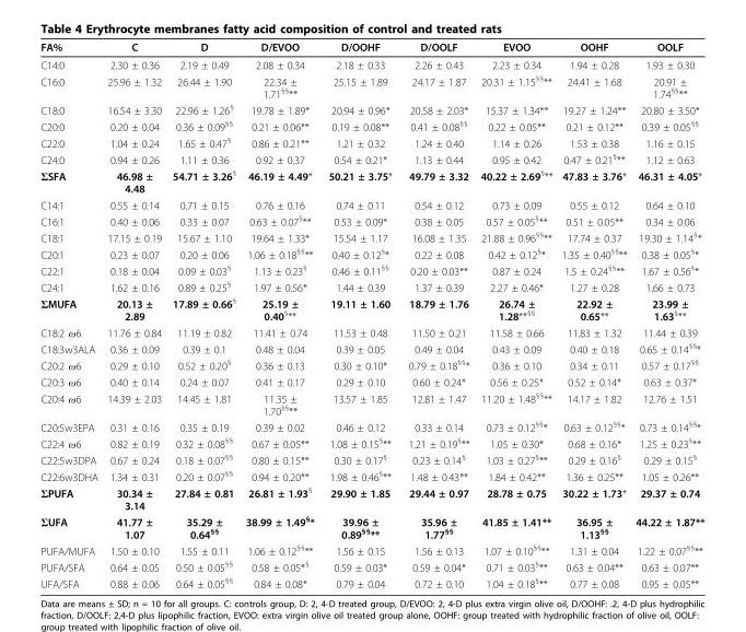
<table><thead><tr><td>FA%</td><td>C</td><td>D</td><td>D/EVOO</td><td>D/OOHF</td><td>D/OOLF</td><td>EVOO</td><td>OOHF</td><td>OOLF</td></tr></thead><tbody><tr><td>C14:0</td><td>2.30 ± 0.36</td><td>2.19 ± 0.49</td><td>2.08 ± 0.34</td><td>2.18 ± 0.33</td><td>2.26 ± 0.43</td><td>2.23 ± 0.34</td><td>1.94 ± 0.28</td><td>1.93 ± 0.30</td></tr><tr><td>C16:0</td><td>25.96 ± 1.32</td><td>26.44 ± 1.90</td><td>22.34 ± 1.71<sup>§§</sup>**</td><td>25.15 ± 1.89</td><td>24.17 ± 1.87</td><td>20.31 ± 1.15<sup>§§</sup>**</td><td>24.41 ± 1.68</td><td>20.91 ± 1.74<sup>§§</sup>**</td></tr><tr><td>C18:0</td><td>16.54 ± 3.30</td><td>22.96 ± 1.26<sup>§</sup></td><td>19.78 ± 1.89*</td><td>20.94 ± 0.96*</td><td>20.58 ± 2.03*</td><td>15.37 ± 1.34**</td><td>19.27 ± 1.24**</td><td>20.80 ± 3.50*</td></tr><tr><td>C20:0</td><td>0.20 ± 0.04</td><td>0.36 ± 0.09<sup>§§</sup></td><td>0.21 ± 0.06**</td><td>0.19 ± 0.08**</td><td>0.41 ± 0.08<sup>§§</sup></td><td>0.22 ± 0.05**</td><td>0.21 ± 0.12**</td><td>0.39 ± 0.05<sup>§§</sup></td></tr><tr><td>C22:0</td><td>1.04 ± 0.24</td><td>1.65 ± 0.47<sup>§</sup></td><td>0.86 ± 0.21**</td><td>1.21 ± 0.32</td><td>1.24 ± 0.40</td><td>1.14 ± 0.26</td><td>1.53 ± 0.38</td><td>1.16 ± 0.15</td></tr><tr><td>C24:0</td><td>0.94 ± 0.26</td><td>1.11 ± 0.36</td><td>0.92 ± 0.37</td><td>0.54 ± 0.21*</td><td>1.13 ± 0.44</td><td>0.95 ± 0.42</td><td>0.47 ± 0.21<sup>§</sup>**</td><td>1.12 ± 0.63</td></tr><tr><td>ΣSFA</td><td>46.98 ± 4.48</td><td>54.71 ± 3.26<sup>§</sup></td><td>46.19 ± 4.49*</td><td>50.21 ± 3.75*</td><td>49.79 ± 3.32</td><td>40.22 ± 2.69<sup>§</sup>**</td><td>47.83 ± 3.76*</td><td>46.31 ± 4.05*</td></tr><tr><td>C14:1</td><td>0.55 ± 0.14</td><td>0.71 ± 0.15</td><td>0.76 ± 0.16</td><td>0.74 ± 0.11</td><td>0.54 ± 0.12</td><td>0.73 ± 0.09</td><td>0.55 ± 0.12</td><td>0.64 ± 0.10</td></tr><tr><td>C16:1</td><td>0.40 ± 0.06</td><td>0.33 ± 0.07</td><td>0.63 ± 0.07<sup>§</sup>**</td><td>0.53 ± 0.09*</td><td>0.38 ± 0.05</td><td>0.57 ± 0.05<sup>§</sup>**</td><td>0.51 ± 0.05**</td><td>0.34 ± 0.06</td></tr><tr><td>C18:1</td><td>17.15 ± 0.19</td><td>15.67 ± 1.10</td><td>19.64 ± 1.33*</td><td>15.54 ± 1.17</td><td>16.08 ± 1.35</td><td>21.88 ± 0.96<sup>§§</sup>**</td><td>17.74 ± 0.37</td><td>19.30 ± 1.14<sup>§</sup>*</td></tr><tr><td>C20:1</td><td>0.23 ± 0.07</td><td>0.20 ± 0.06</td><td>1.06 ± 0.18<sup>§§</sup>**</td><td>0.40 ± 0.12<sup>§</sup>*</td><td>0.22 ± 0.08</td><td>0.42 ± 0.12<sup>§</sup>*</td><td>1.35 ± 0.40<sup>§§</sup>**</td><td>0.38 ± 0.05<sup>§</sup>*</td></tr><tr><td>C22:1</td><td>0.18 ± 0.04</td><td>0.09 ± 0.03<sup>§</sup></td><td>1.13 ± 0.23<sup>§</sup></td><td>0.46 ± 0.11<sup>§§</sup></td><td>0.20 ± 0.03**</td><td>0.87 ± 0.24</td><td>1.5 ± 0.24<sup>§§</sup>**</td><td>1.67 ± 0.56<sup>§</sup>*</td></tr><tr><td>C24:1</td><td>1.62 ± 0.16</td><td>0.89 ± 0.25<sup>§</sup></td><td>1.97 ± 0.56*</td><td>1.44 ± 0.39</td><td>1.37 ± 0.39</td><td>2.27 ± 0.46*</td><td>1.27 ± 0.28</td><td>1.66 ± 0.73</td></tr><tr><td>ΣMUFA</td><td>20.13 ± 2.89</td><td>17.89 ± 0.66<sup>§</sup></td><td>25.19 ± 0.40<sup>§</sup>**</td><td>19.11 ± 1.60</td><td>18.79 ± 1.76</td><td>26.74 ± 1.28**<sup>§§</sup></td><td>22.92 ± 0.65**</td><td>23.99 ± 1.63<sup>§</sup>**</td></tr><tr><td>C18:2 ω6</td><td>11.76 ± 0.84</td><td>11.19 ± 0.82</td><td>11.41 ± 0.74</td><td>11.53 ± 0.48</td><td>11.50 ± 0.21</td><td>11.58 ± 0.66</td><td>11.83 ± 1.32</td><td>11.44 ± 0.39</td></tr><tr><td>C18:3w3ALA</td><td>0.36 ± 0.09</td><td>0.39 ± 0.1</td><td>0.48 ± 0.04</td><td>0.39 ± 0.05</td><td>0.49 ± 0.04</td><td>0.43 ± 0.09</td><td>0.40 ± 0.18</td><td>0.65 ± 0.14<sup>§§</sup>*</td></tr><tr><td>C20:2 ω6</td><td>0.29 ± 0.10</td><td>0.52 ± 0.20<sup>§</sup></td><td>0.36 ± 0.13</td><td>0.30 ± 0.10*</td><td>0.79 ± 0.18<sup>§§</sup>*</td><td>0.36 ± 0.10</td><td>0.34 ± 0.11</td><td>0.57 ± 0.17<sup>§§</sup></td></tr><tr><td>C20:3 ω6</td><td>0.40 ± 0.14</td><td>0.24 ± 0.07</td><td>0.41 ± 0.17</td><td>0.29 ± 0.10</td><td>0.60 ± 0.24*</td><td>0.56 ± 0.25*</td><td>0.52 ± 0.14*</td><td>0.63 ± 0.37*</td></tr><tr><td>C20:4 ω6</td><td>14.39 ± 2.03</td><td>14.45 ± 1.81</td><td>11.35 ± 1.70<sup>§§</sup>**</td><td>13.57 ± 1.85</td><td>12.81 ± 1.47</td><td>11.20 ± 1.48<sup>§§</sup>**</td><td>14.17 ± 1.82</td><td>12.76 ± 1.51</td></tr><tr><td>C20:5w3EPA</td><td>0.31 ± 0.16</td><td>0.35 ± 0.19</td><td>0.39 ± 0.02</td><td>0.46 ± 0.12</td><td>0.33 ± 0.14</td><td>0.73 ± 0.12<sup>§§</sup>*</td><td>0.63 ± 0.12<sup>§§</sup>*</td><td>0.73 ± 0.14<sup>§§</sup>*</td></tr><tr><td>C22:4 ω6</td><td>0.82 ± 0.19</td><td>0.32 ± 0.08<sup>§§</sup></td><td>0.67 ± 0.05**</td><td>1.08 ± 0.15<sup>§</sup>**</td><td>1.21 ± 0.19<sup>§</sup>**</td><td>1.05 ± 0.30*</td><td>0.68 ± 0.16*</td><td>1.25 ± 0.23<sup>§</sup>**</td></tr><tr><td>C22:5w3DPA</td><td>0.67 ± 0.24</td><td>0.18 ± 0.07<sup>§§</sup></td><td>0.80 ± 0.15**</td><td>0.30 ± 0.17<sup>§</sup></td><td>0.23 ± 0.14<sup>§</sup></td><td>1.03 ± 0.27<sup>§</sup>**</td><td>0.29 ± 0.16<sup>§</sup></td><td>0.29 ± 0.15<sup>§</sup></td></tr><tr><td>C22:6w3DHA</td><td>1.34 ± 0.31</td><td>0.20 ± 0.07<sup>§§</sup></td><td>0.94 ± 0.20**</td><td>1.98 ± 0.46<sup>§</sup>**</td><td>1.48 ± 0.43**</td><td>1.84 ± 0.42**</td><td>1.36 ± 0.25**</td><td>1.05 ± 0.26**</td></tr><tr><td>ΣPUFA</td><td>30.34 ± 3.14</td><td>27.84 ± 0.81</td><td>26.81 ± 1.93<sup>§</sup></td><td>29.90 ± 1.85</td><td>29.44 ± 0.97</td><td>28.78 ± 0.75</td><td>30.22 ± 1.73*</td><td>29.37 ± 0.74</td></tr><tr><td>ΣUFA</td><td>41.77 ± 1.07</td><td>35.29 ± 0.64<sup>§§</sup></td><td>38.99 ± 1.49<sup>§</sup>*</td><td>39.96 ± 0.89<sup>§§</sup>**</td><td>35.96 ± 1.77<sup>§§</sup></td><td>41.85 ± 1.41**</td><td>36.95 ± 1.13<sup>§§</sup></td><td>44.22 ± 1.87**</td></tr><tr><td>PUFA/MUFA</td><td>1.50 ± 0.10</td><td>1.55 ± 0.11</td><td>1.06 ± 0.12<sup>§§</sup>**</td><td>1.56 ± 0.15</td><td>1.56 ± 0.13</td><td>1.07 ± 0.10<sup>§§</sup>**</td><td>1.31 ± 0.04</td><td>1.22 ± 0.07<sup>§§</sup>**</td></tr><tr><td>PUFA/SFA</td><td>0.64 ± 0.05</td><td>0.50 ± 0.05<sup>§§</sup></td><td>0.58 ± 0.05*<sup>§</sup></td><td>0.59 ± 0.03*</td><td>0.59 ± 0.04*</td><td>0.71 ± 0.03<sup>§</sup>**</td><td>0.63 ± 0.04**</td><td>0.63 ± 0.07**</td></tr><tr><td>UFA/SFA</td><td>0.88 ± 0.06</td><td>0.64 ± 0.05<sup>§§</sup></td><td>0.84 ± 0.08*</td><td>0.79 ± 0.04</td><td>0.72 ± 0.10</td><td>1.04 ± 0.18<sup>§</sup>**</td><td>0.77 ± 0.08</td><td>0.95 ± 0.05**</td></tr></tbody></table>